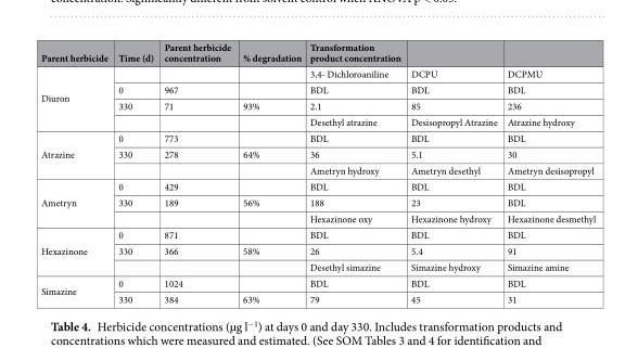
<table><thead><tr><td>Parent herbicide</td><td>Time (d)</td><td>Parent herbicide concentration</td><td>% degradation</td><td>Transformation product concentration</td><td></td><td></td></tr></thead><tbody><tr><td rowspan="4">Diuron</td><td></td><td></td><td></td><td>3,4- Dichloroaniline</td><td>DCPU</td><td>DCPMU</td></tr><tr><td>0</td><td>967</td><td></td><td>BDL</td><td>BDL</td><td>BDL</td></tr><tr><td>330</td><td>71</td><td>93%</td><td>2.1</td><td>85</td><td>236</td></tr><tr><td></td><td></td><td></td><td>Desethyl atrazine</td><td>Desisopropyl Atrazine</td><td>Atrazine hydroxy</td></tr><tr><td rowspan="3">Atrazine</td><td>0</td><td>773</td><td></td><td>BDL</td><td>BDL</td><td>BDL</td></tr><tr><td>330</td><td>278</td><td>64%</td><td>36</td><td>5.1</td><td>30</td></tr><tr><td></td><td></td><td></td><td>Ametryn hydroxy</td><td>Ametryn desethyl</td><td>Ametryn desisopropyl</td></tr><tr><td rowspan="3">Ametryn</td><td>0</td><td>429</td><td></td><td>BDL</td><td>BDL</td><td>BDL</td></tr><tr><td>330</td><td>189</td><td>56%</td><td>188</td><td>23</td><td>BDL</td></tr><tr><td></td><td></td><td></td><td>Hexazinone oxy</td><td>Hexazinone hydroxy</td><td>Hexazinone desmethyl</td></tr><tr><td rowspan="3">Hexazinone</td><td>0</td><td>871</td><td></td><td>BDL</td><td>BDL</td><td>BDL</td></tr><tr><td>330</td><td>366</td><td>58%</td><td>26</td><td>5.4</td><td>91</td></tr><tr><td></td><td></td><td></td><td>Desethyl simazine</td><td>Simazine hydroxy</td><td>Simazine amine</td></tr><tr><td rowspan="2">Simazine</td><td>0</td><td>1024</td><td></td><td>BDL</td><td>BDL</td><td>BDL</td></tr><tr><td>330</td><td>384</td><td>63%</td><td>79</td><td>45</td><td>31</td></tr></tbody></table>